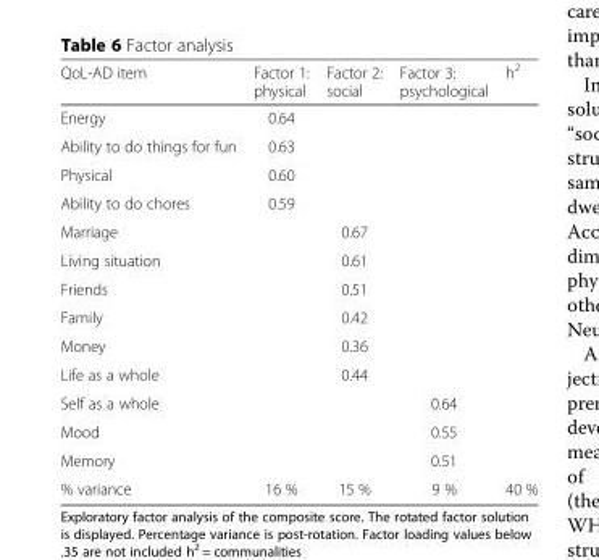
<table><thead><tr><td>QoL-AD item</td><td>Factor 1: physical</td><td>Factor 2: social</td><td>Factor 3: psychological</td><td>h<sup>2</sup></td></tr></thead><tbody><tr><td>Energy</td><td>0.64</td><td></td><td></td><td></td></tr><tr><td>Ability to do things for fun</td><td>0.63</td><td></td><td></td><td></td></tr><tr><td>Physical</td><td>0.60</td><td></td><td></td><td></td></tr><tr><td>Ability to do chores</td><td>0.59</td><td></td><td></td><td></td></tr><tr><td>Marriage</td><td></td><td>0.67</td><td></td><td></td></tr><tr><td>Living situation</td><td></td><td>0.61</td><td></td><td></td></tr><tr><td>Friends</td><td></td><td>0.51</td><td></td><td></td></tr><tr><td>Family</td><td></td><td>0.42</td><td></td><td></td></tr><tr><td>Money</td><td></td><td>0.36</td><td></td><td></td></tr><tr><td>Life as a whole</td><td></td><td>0.44</td><td></td><td></td></tr><tr><td>Self as a whole</td><td></td><td></td><td>0.64</td><td></td></tr><tr><td>Mood</td><td></td><td></td><td>0.55</td><td></td></tr><tr><td>Memory</td><td></td><td></td><td>0.51</td><td></td></tr><tr><td>% variance</td><td>16 %</td><td>15 %</td><td>9 %</td><td>40 %</td></tr></tbody></table>